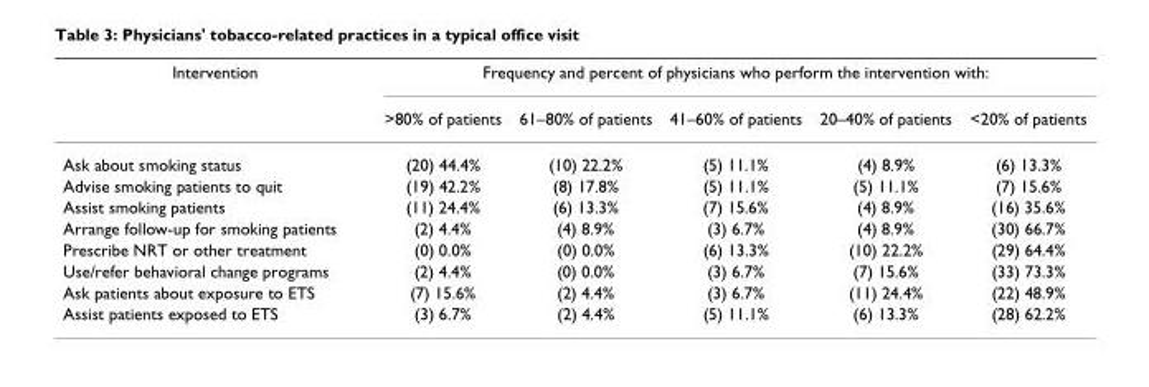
<table><thead><tr><td rowspan="2">Intervention</td><td colspan="5">Frequency and percent of physicians who perform the intervention with:</td></tr><tr><td>&gt;80% of patients</td><td>61–80% of patients</td><td>41–60% of patients</td><td>20–40% of patients</td><td>&lt;20% of patients</td></tr></thead><tbody><tr><td>Ask about smoking status</td><td>(20) 44.4%</td><td>(10) 22.2%</td><td>(5) 11.1%</td><td>(4) 8.9%</td><td>(6) 13.3%</td></tr><tr><td>Advise smoking patients to quit</td><td>(19) 42.2%</td><td>(8) 17.8%</td><td>(5) 11.1%</td><td>(5) 11.1%</td><td>(7) 15.6%</td></tr><tr><td>Assist smoking patients</td><td>(11) 24.4%</td><td>(6) 13.3%</td><td>(7) 15.6%</td><td>(4) 8.9%</td><td>(16) 35.6%</td></tr><tr><td>Arrange follow-up for smoking patients</td><td>(2) 4.4%</td><td>(4) 8.9%</td><td>(3) 6.7%</td><td>(4) 8.9%</td><td>(30) 66.7%</td></tr><tr><td>Prescribe NRT or other treatment</td><td>(0) 0.0%</td><td>(0) 0.0%</td><td>(6) 13.3%</td><td>(10) 22.2%</td><td>(29) 64.4%</td></tr><tr><td>Use/refer behavioral change programs</td><td>(2) 4.4%</td><td>(0) 0.0%</td><td>(3) 6.7%</td><td>(7) 15.6%</td><td>(33) 73.3%</td></tr><tr><td>Ask patients about exposure to ETS</td><td>(7) 15.6%</td><td>(2) 4.4%</td><td>(3) 6.7%</td><td>(11) 24.4%</td><td>(22) 48.9%</td></tr><tr><td>Assist patients exposed to ETS</td><td>(3) 6.7%</td><td>(2) 4.4%</td><td>(5) 11.1%</td><td>(6) 13.3%</td><td>(28) 62.2%</td></tr></tbody></table>